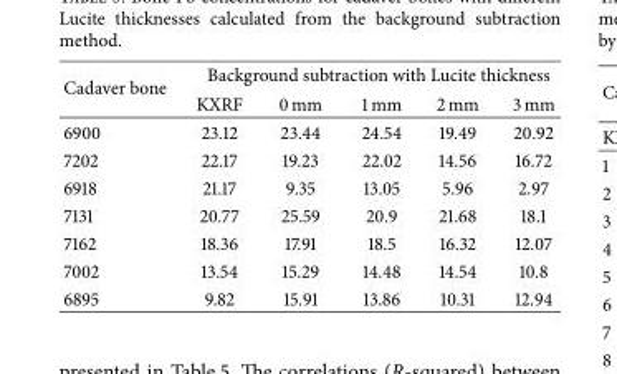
<table><thead><tr><td rowspan="2">Cadaver bone</td><td colspan="5">Background subtraction with Lucite thickness</td></tr><tr><td>KXRF</td><td>0 mm</td><td>1 mm</td><td>2 mm</td><td>3 mm</td></tr></thead><tbody><tr><td>6900</td><td>23.12</td><td>23.44</td><td>24.54</td><td>19.49</td><td>20.92</td></tr><tr><td>7202</td><td>22.17</td><td>19.23</td><td>22.02</td><td>14.56</td><td>16.72</td></tr><tr><td>6918</td><td>21.17</td><td>9.35</td><td>13.05</td><td>5.96</td><td>2.97</td></tr><tr><td>7131</td><td>20.77</td><td>25.59</td><td>20.9</td><td>21.68</td><td>18.1</td></tr><tr><td>7162</td><td>18.36</td><td>17.91</td><td>18.5</td><td>16.32</td><td>12.07</td></tr><tr><td>7002</td><td>13.54</td><td>15.29</td><td>14.48</td><td>14.54</td><td>10.8</td></tr><tr><td>6895</td><td>9.82</td><td>15.91</td><td>13.86</td><td>10.31</td><td>12.94</td></tr></tbody></table>